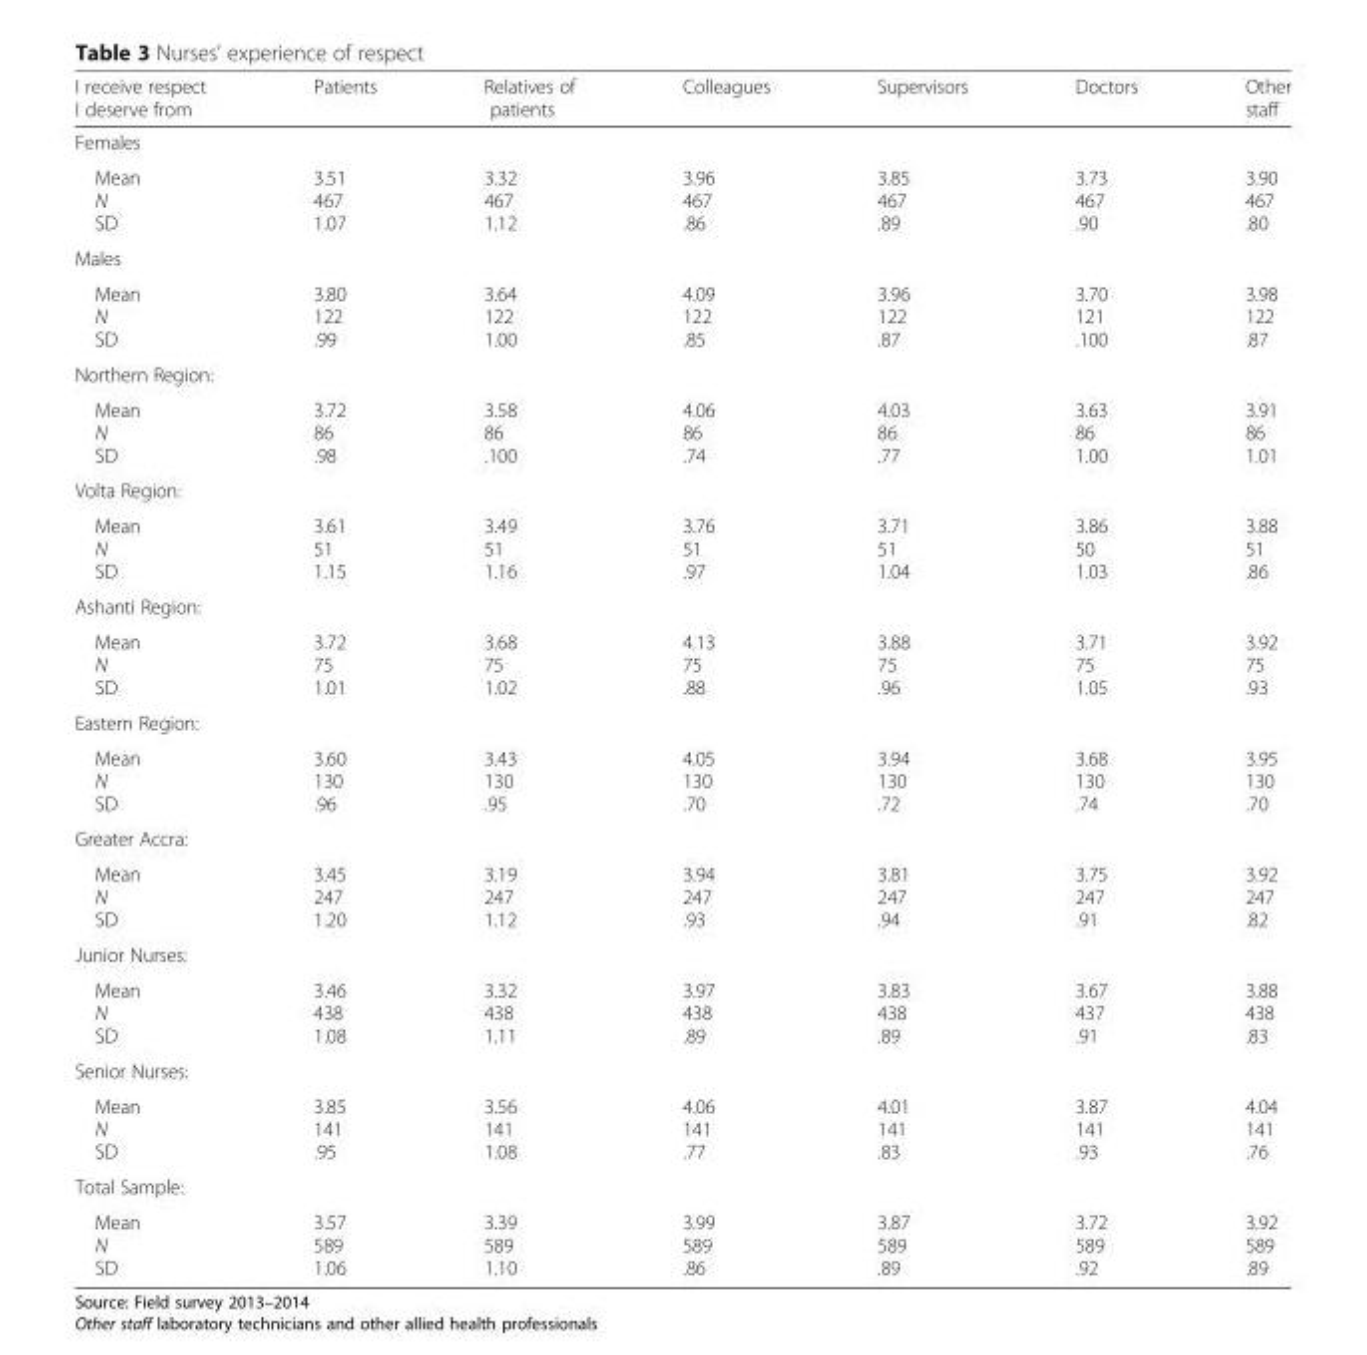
<table><thead><tr><td>I receive respect I deserve from</td><td>Patients</td><td>Relatives of patients</td><td>Colleagues</td><td>Supervisors</td><td>Doctors</td><td>Other staff</td></tr></thead><tbody><tr><td colspan="7">Females</td></tr><tr><td>Mean N SD</td><td>3.51 467 1.07</td><td>3.32 467 1.12</td><td>3.96 467 .86</td><td>3.85 467 .89</td><td>3.73 467 .90</td><td>3.90 467 .80</td></tr><tr><td colspan="7">Males</td></tr><tr><td>Mean N SD</td><td>3.80 122 .99</td><td>3.64 122 1.00</td><td>4.09 122 .85</td><td>3.96 122 .87</td><td>3.70 121 .100</td><td>3.98 122 .87</td></tr><tr><td colspan="7">Northern Region:</td></tr><tr><td>Mean N SD</td><td>3.72 86 .98</td><td>3.58 86 .100</td><td>4.06 86 .74</td><td>4.03 86 .77</td><td>3.63 86 1.00</td><td>3.91 86 1.01</td></tr><tr><td colspan="7">Volta Region:</td></tr><tr><td>Mean N SD</td><td>3.61 51 1.15</td><td>3.49 51 1.16</td><td>3.76 51 .97</td><td>3.71 51 1.04</td><td>3.86 50 1.03</td><td>3.88 51 .86</td></tr><tr><td colspan="7">Ashanti Region:</td></tr><tr><td>Mean N SD</td><td>3.72 75 1.01</td><td>3.68 75 1.02</td><td>4.13 75 .88</td><td>3.88 75 .96</td><td>3.71 75 1.05</td><td>3.92 75 .93</td></tr><tr><td colspan="7">Eastern Region:</td></tr><tr><td>Mean N SD</td><td>3.60 130 .96</td><td>3.43 130 .95</td><td>4.05 130 .70</td><td>3.94 130 .72</td><td>3.68 130 .74</td><td>3.95 130 .70</td></tr><tr><td colspan="7">Greater Accra:</td></tr><tr><td>Mean N SD</td><td>3.45 247 1.20</td><td>3.19 247 1.12</td><td>3.94 247 .93</td><td>3.81 247 .94</td><td>3.75 247 .91</td><td>3.92 247 .82</td></tr><tr><td colspan="7">Junior Nurses:</td></tr><tr><td>Mean N SD</td><td>3.46 438 1.08</td><td>3.32 438 1.11</td><td>3.97 438 .89</td><td>3.83 438 .89</td><td>3.67 437 .91</td><td>3.88 438 .83</td></tr><tr><td colspan="7">Senior Nurses:</td></tr><tr><td>Mean N SD</td><td>3.85 141 .95</td><td>3.56 141 1.08</td><td>4.06 141 .77</td><td>4.01 141 .83</td><td>3.87 141 .93</td><td>4.04 141 .76</td></tr><tr><td colspan="7">Total Sample:</td></tr><tr><td>Mean N SD</td><td>3.57 589 1.06</td><td>3.39 589 1.10</td><td>3.99 589 .86</td><td>3.87 589 .89</td><td>3.72 589 .92</td><td>3.92 589 .89</td></tr></tbody></table>